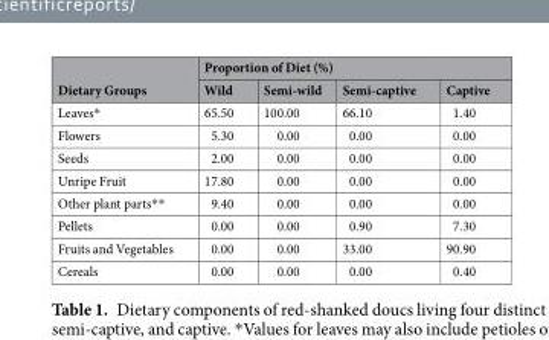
<table><thead><tr><td rowspan="2">Dietary Groups</td><td colspan="4">Proportion of Diet (%)</td></tr><tr><td>Wild</td><td>Semi-wild</td><td>Semi-captive</td><td>Captive</td></tr></thead><tbody><tr><td>Leaves*</td><td>65.50</td><td>100.00</td><td>66.10</td><td>1.40</td></tr><tr><td>Flowers</td><td>5.30</td><td>0.00</td><td>0.00</td><td>0.00</td></tr><tr><td>Seeds</td><td>2.00</td><td>0.00</td><td>0.00</td><td>0.00</td></tr><tr><td>Unripe Fruit</td><td>17.80</td><td>0.00</td><td>0.00</td><td>0.00</td></tr><tr><td>Other plant parts**</td><td>9.40</td><td>0.00</td><td>0.00</td><td>0.00</td></tr><tr><td>Pellets</td><td>0.00</td><td>0.00</td><td>0.90</td><td>7.30</td></tr><tr><td>Fruits and Vegetables</td><td>0.00</td><td>0.00</td><td>33.00</td><td>90.90</td></tr><tr><td>Cereals</td><td>0.00</td><td>0.00</td><td>0.00</td><td>0.40</td></tr></tbody></table>